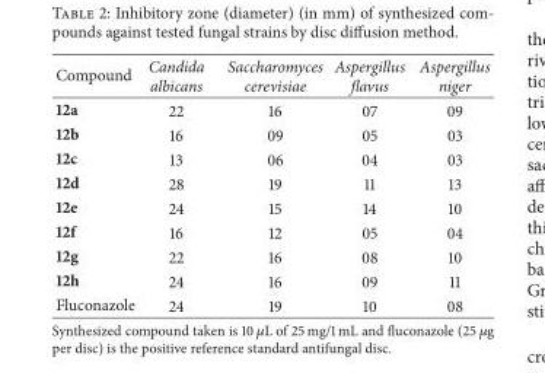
<table><thead><tr><td>Compound</td><td>Candida albicans</td><td>Saccharomyces cerevisiae</td><td>Aspergillus flavus</td><td>Aspergillus niger</td></tr></thead><tbody><tr><td>12a</td><td>22</td><td>16</td><td>07</td><td>09</td></tr><tr><td>12b</td><td>16</td><td>09</td><td>05</td><td>03</td></tr><tr><td>12c</td><td>13</td><td>06</td><td>04</td><td>03</td></tr><tr><td>12d</td><td>28</td><td>19</td><td>11</td><td>13</td></tr><tr><td>12e</td><td>24</td><td>15</td><td>14</td><td>10</td></tr><tr><td>12f</td><td>16</td><td>12</td><td>05</td><td>04</td></tr><tr><td>12g</td><td>22</td><td>16</td><td>08</td><td>10</td></tr><tr><td>12h</td><td>24</td><td>16</td><td>09</td><td>11</td></tr><tr><td>Fluconazole</td><td>24</td><td>19</td><td>10</td><td>08</td></tr></tbody></table>